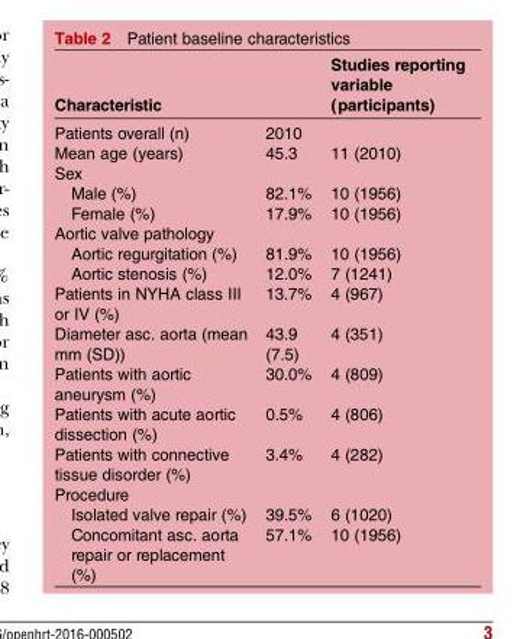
<table><thead><tr><td>Characteristic</td><td></td><td>Studies reporting variable (participants)</td></tr></thead><tbody><tr><td>Patients overall (n)</td><td>2010</td><td></td></tr><tr><td>Mean age (years)</td><td>45.3</td><td>11 (2010)</td></tr><tr><td colspan="3">Sex</td></tr><tr><td>Male (%)</td><td>82.1%</td><td>10 (1956)</td></tr><tr><td>Female (%)</td><td>17.9%</td><td>10 (1956)</td></tr><tr><td colspan="3">Aortic valve pathology</td></tr><tr><td>Aortic regurgitation (%)</td><td>81.9%</td><td>10 (1956)</td></tr><tr><td>Aortic stenosis (%)</td><td>12.0%</td><td>7 (1241)</td></tr><tr><td>Patients in NYHA class III or IV (%)</td><td>13.7%</td><td>4 (967)</td></tr><tr><td>Diameter asc. aorta (mean mm (SD))</td><td>43.9 (7.5)</td><td>4 (351)</td></tr><tr><td>Patients with aortic aneurysm (%)</td><td>30.0%</td><td>4 (809)</td></tr><tr><td>Patients with acute aortic dissection (%)</td><td>0.5%</td><td>4 (806)</td></tr><tr><td>Patients with connective tissue disorder (%)</td><td>3.4%</td><td>4 (282)</td></tr><tr><td colspan="3">Procedure</td></tr><tr><td>Isolated valve repair (%)</td><td>39.5%</td><td>6 (1020)</td></tr><tr><td>Concomitant asc. aorta repair or replacement (%)</td><td>57.1%</td><td>10 (1956)</td></tr></tbody></table>